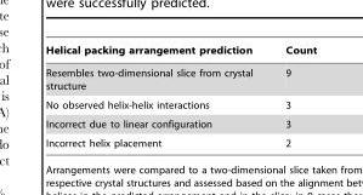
<table><thead><tr><td>Helical packing arrangement prediction</td><td>Count</td></tr></thead><tbody><tr><td>Resembles two-dimensional slice from crystal structure</td><td>9</td></tr><tr><td>No observed helix-helix interactions</td><td>3</td></tr><tr><td>Incorrect due to linear configuration</td><td>3</td></tr><tr><td>Incorrect helix placement</td><td>2</td></tr></tbody></table>